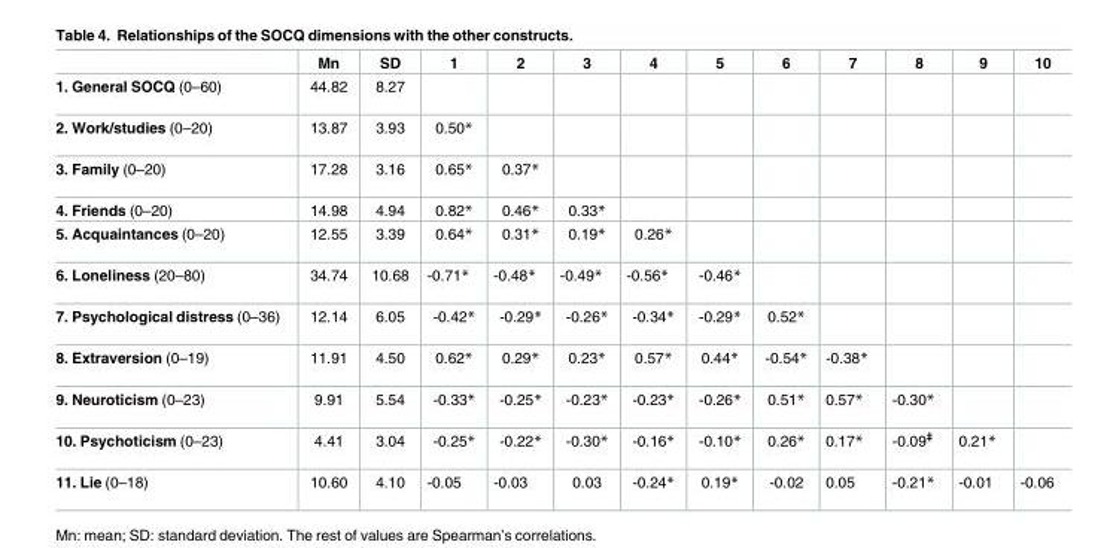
<table><thead><tr><td></td><td>Mn</td><td>SD</td><td>1</td><td>2</td><td>3</td><td>4</td><td>5</td><td>6</td><td>7</td><td>8</td><td>9</td><td>10</td></tr></thead><tbody><tr><td>1. General SOCQ (0–60)</td><td>44.82</td><td>8.27</td><td></td><td></td><td></td><td></td><td></td><td></td><td></td><td></td><td></td><td></td></tr><tr><td>2. Work/studies (0–20)</td><td>13.87</td><td>3.93</td><td>0.50*</td><td></td><td></td><td></td><td></td><td></td><td></td><td></td><td></td><td></td></tr><tr><td>3. Family (0–20)</td><td>17.28</td><td>3.16</td><td>0.65*</td><td>0.37*</td><td></td><td></td><td></td><td></td><td></td><td></td><td></td><td></td></tr><tr><td>4. Friends (0–20)</td><td>14.98</td><td>4.94</td><td>0.82*</td><td>0.46*</td><td>0.33*</td><td></td><td></td><td></td><td></td><td></td><td></td><td></td></tr><tr><td>5. Acquaintances (0–20)</td><td>12.55</td><td>3.39</td><td>0.64*</td><td>0.31*</td><td>0.19*</td><td>0.26*</td><td></td><td></td><td></td><td></td><td></td><td></td></tr><tr><td>6. Loneliness (20–80)</td><td>34.74</td><td>10.68</td><td>-0.71*</td><td>-0.48*</td><td>-0.49*</td><td>-0.56*</td><td>-0.46*</td><td></td><td></td><td></td><td></td><td></td></tr><tr><td>7. Psychological distress (0–36)</td><td>12.14</td><td>6.05</td><td>-0.42*</td><td>-0.29*</td><td>-0.26*</td><td>-0.34*</td><td>-0.29*</td><td>0.52*</td><td></td><td></td><td></td><td></td></tr><tr><td>8. Extraversion (0–19)</td><td>11.91</td><td>4.50</td><td>0.62*</td><td>0.29*</td><td>0.23*</td><td>0.57*</td><td>0.44*</td><td>-0.54*</td><td>-0.38*</td><td></td><td></td><td></td></tr><tr><td>9. Neuroticism (0–23)</td><td>9.91</td><td>5.54</td><td>-0.33*</td><td>-0.25*</td><td>-0.23*</td><td>-0.23*</td><td>-0.26*</td><td>0.51*</td><td>0.57*</td><td>-0.30*</td><td></td><td></td></tr><tr><td>10. Psychoticism (0–23)</td><td>4.41</td><td>3.04</td><td>-0.25*</td><td>-0.22*</td><td>-0.30*</td><td>-0.16*</td><td>-0.10*</td><td>0.26*</td><td>0.17*</td><td>-0.09<sup>‡</sup></td><td>0.21*</td><td></td></tr><tr><td>11. Lie (0–18)</td><td>10.60</td><td>4.10</td><td>-0.05</td><td>-0.03</td><td>0.03</td><td>-0.24*</td><td>0.19*</td><td>-0.02</td><td>0.05</td><td>-0.21*</td><td>-0.01</td><td>-0.06</td></tr></tbody></table>